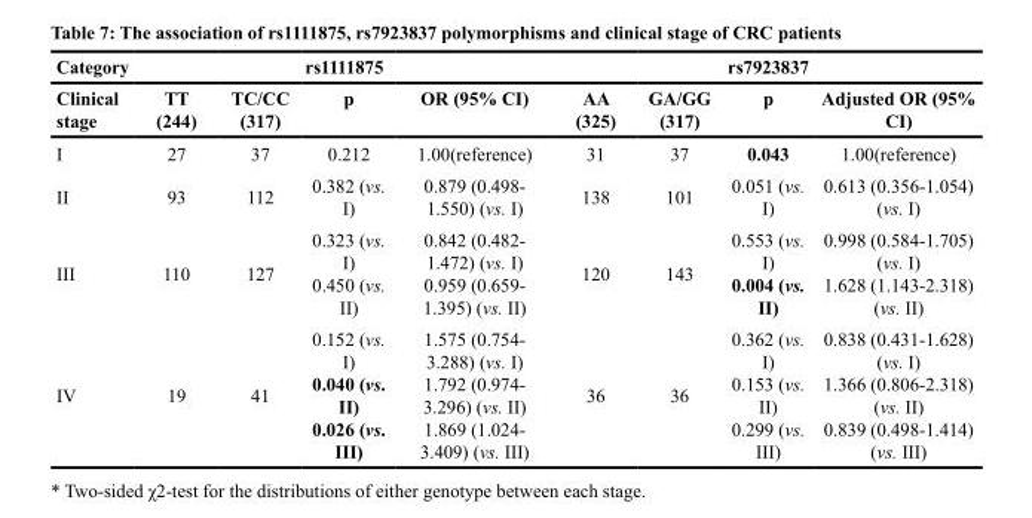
<table><thead><tr><td rowspan="2">Category Clinical stage</td><td rowspan="2">TT (244)</td><td rowspan="2">TC/CC (317)</td><td rowspan="2">rs1111875 p</td><td rowspan="2">OR (95% CI)</td><td rowspan="2">AA (325)</td><td rowspan="2">GA/GG (317)</td><td rowspan="2">rs7923837 p</td><td rowspan="2">Adjusted OR (95% CI)</td></tr><tr></tr></thead><tbody><tr><td>I</td><td>27</td><td>37</td><td>0.212</td><td>1.00(reference)</td><td>31</td><td>37</td><td>0.043</td><td>1.00(reference)</td></tr><tr><td>II</td><td>93</td><td>112</td><td>0.382 (vs. I)</td><td>0.879 (0.498- 1.550) (vs. I)</td><td>138</td><td>101</td><td>0.051 (vs. I)</td><td>0.613 (0.356-1.054) (vs. I)</td></tr><tr><td>III</td><td>110</td><td>127</td><td>0.323 (vs. I) 0.450 (vs. II)</td><td>0.842 (0.482- 1.472) (vs. I) 0.959 (0.659- 1.395) (vs. II)</td><td>120</td><td>143</td><td>0.553 (vs. I) 0.004 (vs. II)</td><td>0.998 (0.584-1.705) (vs. I) 1.628 (1.143-2.318) (vs. II)</td></tr><tr><td>IV</td><td>19</td><td>41</td><td>0.152 (vs. I) 0.040 (vs. II) 0.026 (vs. III)</td><td>1.575 (0.754- 3.288) (vs. I) 1.792 (0.974- 3.296) (vs. II) 1.869 (1.024- 3.409) (vs. III)</td><td>36</td><td>36</td><td>0.362 (vs. I) 0.153 (vs. II) 0.299 (vs. III)</td><td>0.838 (0.431-1.628) (vs. I) 1.366 (0.806-2.318) (vs. II) 0.839 (0.498-1.414) (vs. III)</td></tr></tbody></table>